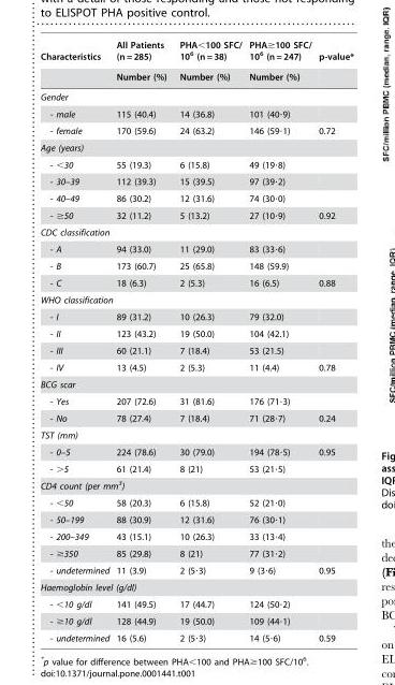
<table><thead><tr><td rowspan="2">Characteristics</td><td rowspan="2">All Patients (n = 285) Number (%)</td><td rowspan="2">PHA&lt;100 SFC/ 10<sup>6</sup> (n = 38) Number (%)</td><td rowspan="2">PHA≥100 SFC/ 10<sup>6</sup> (n = 247) Number (%)</td><td rowspan="2">p-value*</td></tr><tr></tr></thead><tbody><tr><td colspan="5">Gender</td></tr><tr><td>- male</td><td>115 (40.4)</td><td>14 (36.8)</td><td>101 (40·9)</td><td></td></tr><tr><td>- female</td><td>170 (59.6)</td><td>24 (63.2)</td><td>146 (59·1)</td><td>0.72</td></tr><tr><td colspan="5">Age (years)</td></tr><tr><td>- &lt;30</td><td>55 (19.3)</td><td>6 (15.8)</td><td>49 (19·8)</td><td></td></tr><tr><td>- 30–39</td><td>112 (39.3)</td><td>15 (39.5)</td><td>97 (39·2)</td><td></td></tr><tr><td>- 40–49</td><td>86 (30.2)</td><td>12 (31.6)</td><td>74 (30·0)</td><td></td></tr><tr><td>- ≥50</td><td>32 (11.2)</td><td>5 (13.2)</td><td>27 (10·9)</td><td>0.92</td></tr><tr><td colspan="5">CDC classification</td></tr><tr><td>- A</td><td>94 (33.0)</td><td>11 (29.0)</td><td>83 (33·6)</td><td></td></tr><tr><td>- B</td><td>173 (60.7)</td><td>25 (65.8)</td><td>148 (59.9)</td><td></td></tr><tr><td>- C</td><td>18 (6.3)</td><td>2 (5.3)</td><td>16 (6.5)</td><td>0.88</td></tr><tr><td colspan="5">WHO classification</td></tr><tr><td>- I</td><td>89 (31.2)</td><td>10 (26.3)</td><td>79 (32.0)</td><td></td></tr><tr><td>- II</td><td>123 (43.2)</td><td>19 (50.0)</td><td>104 (42.1)</td><td></td></tr><tr><td>- III</td><td>60 (21.1)</td><td>7 (18.4)</td><td>53 (21.5)</td><td></td></tr><tr><td>- IV</td><td>13 (4.5)</td><td>2 (5.3)</td><td>11 (4.4)</td><td>0.78</td></tr><tr><td colspan="5">BCG scar</td></tr><tr><td>- Yes</td><td>207 (72.6)</td><td>31 (81.6)</td><td>176 (71·3)</td><td></td></tr><tr><td>- No</td><td>78 (27.4)</td><td>7 (18.4)</td><td>71 (28·7)</td><td>0.24</td></tr><tr><td colspan="5">TST (mm)</td></tr><tr><td>- 0–5</td><td>224 (78.6)</td><td>30 (79.0)</td><td>194 (78·5)</td><td>0.95</td></tr><tr><td>- &gt;5</td><td>61 (21.4)</td><td>8 (21)</td><td>53 (21·5)</td><td></td></tr><tr><td colspan="5">CD4 count (per mm<sup>3</sup>)</td></tr><tr><td>- &lt;50</td><td>58 (20.3)</td><td>6 (15.8)</td><td>52 (21·0)</td><td></td></tr><tr><td>- 50–199</td><td>88 (30.9)</td><td>12 (31.6)</td><td>76 (30·1)</td><td></td></tr><tr><td>- 200–349</td><td>43 (15.1)</td><td>10 (26.3)</td><td>33 (13·4)</td><td></td></tr><tr><td>- ≥350</td><td>85 (29.8)</td><td>8 (21)</td><td>77 (31·2)</td><td></td></tr><tr><td>- undetermined</td><td>11 (3.9)</td><td>2 (5·3)</td><td>9 (3·6)</td><td>0.95</td></tr><tr><td colspan="5">Haemoglobin level (g/dl)</td></tr><tr><td>- &lt;10 g/dl</td><td>141 (49.5)</td><td>17 (44.7)</td><td>124 (50·2)</td><td></td></tr><tr><td>- ≥10 g/dl</td><td>128 (44.9)</td><td>19 (50.0)</td><td>109 (44·1)</td><td></td></tr><tr><td>- undetermined</td><td>16 (5.6)</td><td>2 (5·3)</td><td>14 (5·6)</td><td>0.59</td></tr></tbody></table>